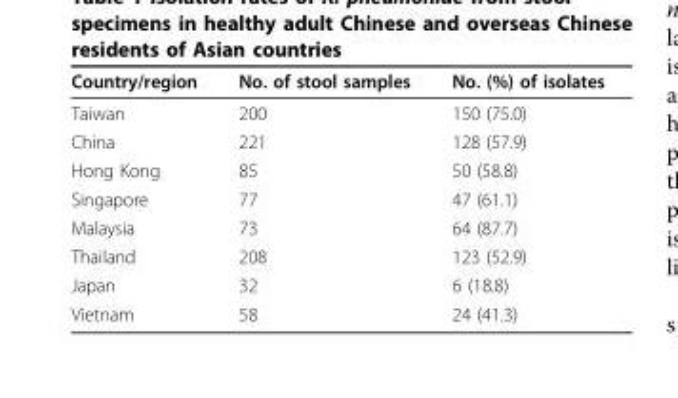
<table><thead><tr><td>Country/region</td><td>No. of stool samples</td><td>No. (%) of isolates</td></tr></thead><tbody><tr><td>Taiwan</td><td>200</td><td>150 (75.0)</td></tr><tr><td>China</td><td>221</td><td>128 (57.9)</td></tr><tr><td>Hong Kong</td><td>85</td><td>50 (58.8)</td></tr><tr><td>Singapore</td><td>77</td><td>47 (61.1)</td></tr><tr><td>Malaysia</td><td>73</td><td>64 (87.7)</td></tr><tr><td>Thailand</td><td>208</td><td>123 (52.9)</td></tr><tr><td>Japan</td><td>32</td><td>6 (18.8)</td></tr><tr><td>Vietnam</td><td>58</td><td>24 (41.3)</td></tr></tbody></table>